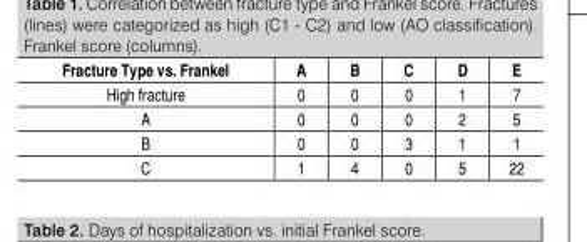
<table><thead><tr><td>Fracture Type vs. Frankel</td><td>A</td><td>B</td><td>C</td><td>D</td><td>E</td></tr></thead><tbody><tr><td>High fracture</td><td>0</td><td>0</td><td>0</td><td>1</td><td>7</td></tr><tr><td>A</td><td>0</td><td>0</td><td>0</td><td>2</td><td>5</td></tr><tr><td>B</td><td>0</td><td>0</td><td>3</td><td>1</td><td>1</td></tr><tr><td>C</td><td>1</td><td>4</td><td>0</td><td>5</td><td>22</td></tr></tbody></table>